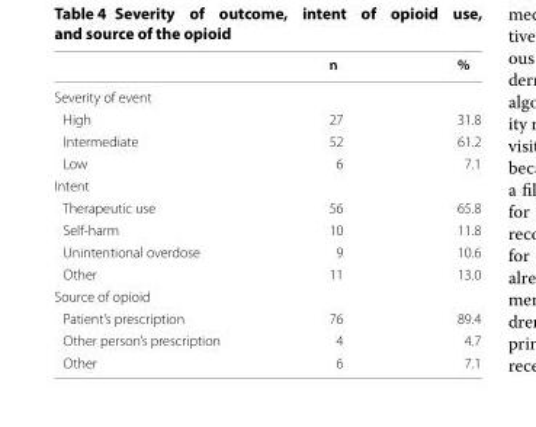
<table><thead><tr><td></td><td>n</td><td>%</td></tr></thead><tbody><tr><td colspan="3">Severity of event</td></tr><tr><td>High</td><td>27</td><td>31.8</td></tr><tr><td>Intermediate</td><td>52</td><td>61.2</td></tr><tr><td>Low</td><td>6</td><td>7.1</td></tr><tr><td colspan="3">Intent</td></tr><tr><td>Therapeutic use</td><td>56</td><td>65.8</td></tr><tr><td>Self-harm</td><td>10</td><td>11.8</td></tr><tr><td>Unintentional overdose</td><td>9</td><td>10.6</td></tr><tr><td>Other</td><td>11</td><td>13.0</td></tr><tr><td colspan="3">Source of opioid</td></tr><tr><td>Patient’s prescription</td><td>76</td><td>89.4</td></tr><tr><td>Other person’s prescription</td><td>4</td><td>4.7</td></tr><tr><td>Other</td><td>6</td><td>7.1</td></tr></tbody></table>